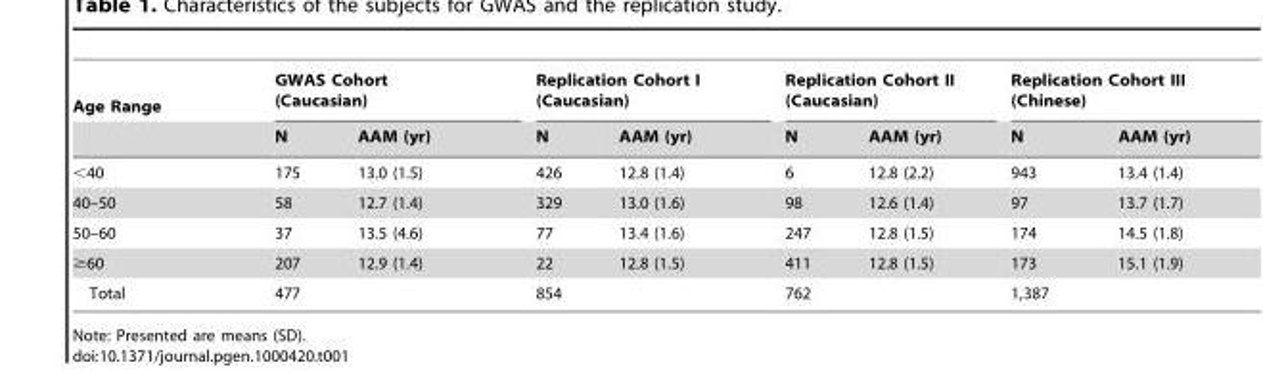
<table><thead><tr><td rowspan="2">Age Range</td><td colspan="2">GWAS Cohort (Caucasian)</td><td colspan="2">Replication Cohort I (Caucasian)</td><td colspan="2">Replication Cohort II (Caucasian)</td><td colspan="2">Replication Cohort III (Chinese)</td></tr><tr><td>N</td><td>AAM (yr)</td><td>N</td><td>AAM (yr)</td><td>N</td><td>AAM (yr)</td><td>N</td><td>AAM (yr)</td></tr></thead><tbody><tr><td>&lt;40</td><td>175</td><td>13.0 (1.5)</td><td>426</td><td>12.8 (1.4)</td><td>6</td><td>12.8 (2.2)</td><td>943</td><td>13.4 (1.4)</td></tr><tr><td>40–50</td><td>58</td><td>12.7 (1.4)</td><td>329</td><td>13.0 (1.6)</td><td>98</td><td>12.6 (1.4)</td><td>97</td><td>13.7 (1.7)</td></tr><tr><td>50–60</td><td>37</td><td>13.5 (4.6)</td><td>77</td><td>13.4 (1.6)</td><td>247</td><td>12.8 (1.5)</td><td>174</td><td>14.5 (1.8)</td></tr><tr><td>≥60</td><td>207</td><td>12.9 (1.4)</td><td>22</td><td>12.8 (1.5)</td><td>411</td><td>12.8 (1.5)</td><td>173</td><td>15.1 (1.9)</td></tr><tr><td>Total</td><td>477</td><td></td><td>854</td><td></td><td>762</td><td></td><td>1,387</td><td></td></tr></tbody></table>